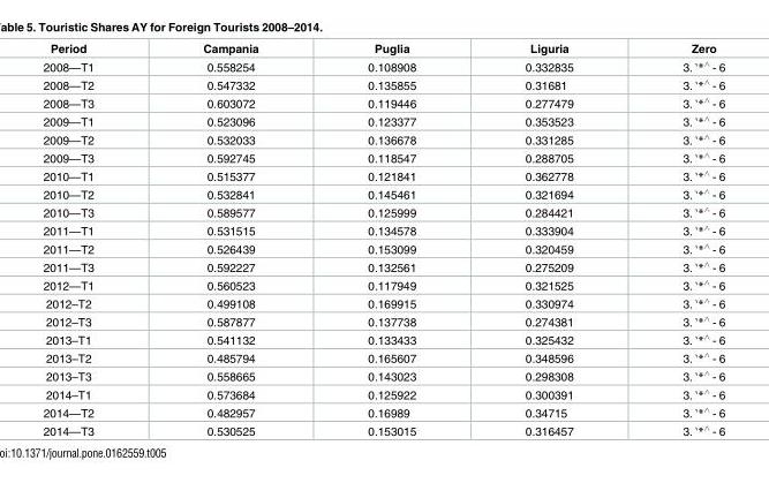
<table><thead><tr><td>Period</td><td>Campania</td><td>Puglia</td><td>Liguria</td><td>Zero</td></tr></thead><tbody><tr><td>2008—T1</td><td>0.558254</td><td>0.108908</td><td>0.332835</td><td>3. ‵*<sup>∧</sup> - 6</td></tr><tr><td>2008—T2</td><td>0.547332</td><td>0.135855</td><td>0.31681</td><td>3. ‵*<sup>∧</sup> - 6</td></tr><tr><td>2008—T3</td><td>0.603072</td><td>0.119446</td><td>0.277479</td><td>3. ‵*<sup>∧</sup> - 6</td></tr><tr><td>2009—T1</td><td>0.523096</td><td>0.123377</td><td>0.353523</td><td>3. ‵*<sup>∧</sup> - 6</td></tr><tr><td>2009—T2</td><td>0.532033</td><td>0.136678</td><td>0.331285</td><td>3. ‵*<sup>∧</sup> - 6</td></tr><tr><td>2009—T3</td><td>0.592745</td><td>0.118547</td><td>0.288705</td><td>3. ‵*<sup>∧</sup> - 6</td></tr><tr><td>2010—T1</td><td>0.515377</td><td>0.121841</td><td>0.362778</td><td>3. ‵*<sup>∧</sup> - 6</td></tr><tr><td>2010—T2</td><td>0.532841</td><td>0.145461</td><td>0.321694</td><td>3. ‵*<sup>∧</sup> - 6</td></tr><tr><td>2010—T3</td><td>0.589577</td><td>0.125999</td><td>0.284421</td><td>3. ‵*<sup>∧</sup> - 6</td></tr><tr><td>2011—T1</td><td>0.531515</td><td>0.134578</td><td>0.333904</td><td>3. ‵*<sup>∧</sup> - 6</td></tr><tr><td>2011—T2</td><td>0.526439</td><td>0.153099</td><td>0.320459</td><td>3. ‵*<sup>∧</sup> - 6</td></tr><tr><td>2011—T3</td><td>0.592227</td><td>0.132561</td><td>0.275209</td><td>3. ‵*<sup>∧</sup> - 6</td></tr><tr><td>2012—T1</td><td>0.560523</td><td>0.117949</td><td>0.321525</td><td>3. ‵*<sup>∧</sup> - 6</td></tr><tr><td>2012–T2</td><td>0.499108</td><td>0.169915</td><td>0.330974</td><td>3. ‵*<sup>∧</sup> - 6</td></tr><tr><td>2012–T3</td><td>0.587877</td><td>0.137738</td><td>0.274381</td><td>3. ‵*<sup>∧</sup> - 6</td></tr><tr><td>2013–T1</td><td>0.541132</td><td>0.133433</td><td>0.325432</td><td>3. ‵*<sup>∧</sup> - 6</td></tr><tr><td>2013–T2</td><td>0.485794</td><td>0.165607</td><td>0.348596</td><td>3. ‵*<sup>∧</sup> - 6</td></tr><tr><td>2013–T3</td><td>0.558665</td><td>0.143023</td><td>0.298308</td><td>3. ‵*<sup>∧</sup> - 6</td></tr><tr><td>2014–T1</td><td>0.573684</td><td>0.125922</td><td>0.300391</td><td>3. ‵*<sup>∧</sup> - 6</td></tr><tr><td>2014—T2</td><td>0.482957</td><td>0.16989</td><td>0.34715</td><td>3. ‵*<sup>∧</sup> - 6</td></tr><tr><td>2014—T3</td><td>0.530525</td><td>0.153015</td><td>0.316457</td><td>3. ‵*<sup>∧</sup> - 6</td></tr></tbody></table>